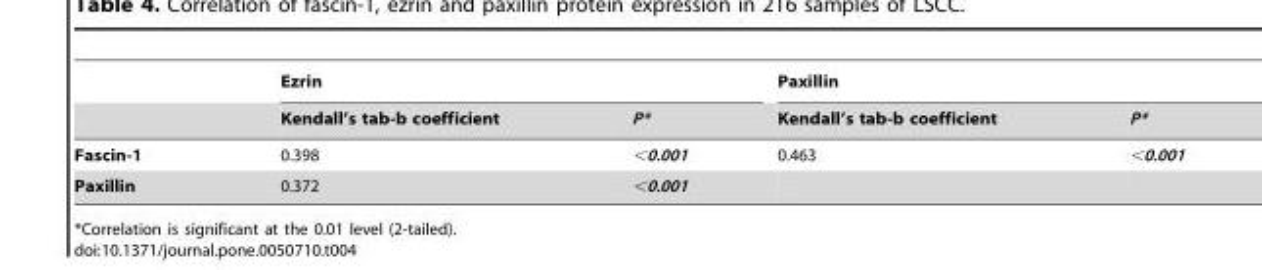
<table><thead><tr><td rowspan="2"></td><td colspan="2">Ezrin</td><td colspan="2">Paxillin</td></tr><tr><td>Kendall’s tab-b coefficient</td><td>P*</td><td>Kendall’s tab-b coefficient</td><td>P*</td></tr></thead><tbody><tr><td>Fascin-1</td><td>0.398</td><td>&lt;0.001</td><td>0.463</td><td>&lt;0.001</td></tr><tr><td>Paxillin</td><td>0.372</td><td>&lt;0.001</td><td></td><td></td></tr></tbody></table>